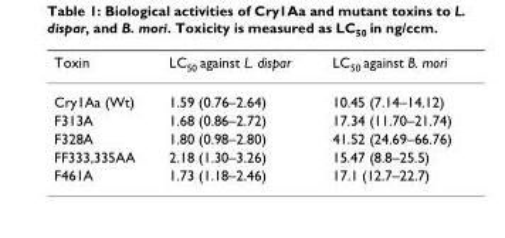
<table><thead><tr><td>Toxin</td><td>LC<sub>50</sub> against L. dispar</td><td>LC<sub>50</sub> against B. mori</td></tr></thead><tbody><tr><td>Cry1Aa (Wt)</td><td>1.59 (0.76–2.64)</td><td>10.45 (7.14–14.12)</td></tr><tr><td>F313A</td><td>1.68 (0.86–2.72)</td><td>17.34 (11.70–21.74)</td></tr><tr><td>F328A</td><td>1.80 (0.98–2.80)</td><td>41.52 (24.69–66.76)</td></tr><tr><td>FF333,335AA</td><td>2.18 (1.30–3.26)</td><td>15.47 (8.8–25.5)</td></tr><tr><td>F461A</td><td>1.73 (1.18–2.46)</td><td>17.1 (12.7–22.7)</td></tr></tbody></table>